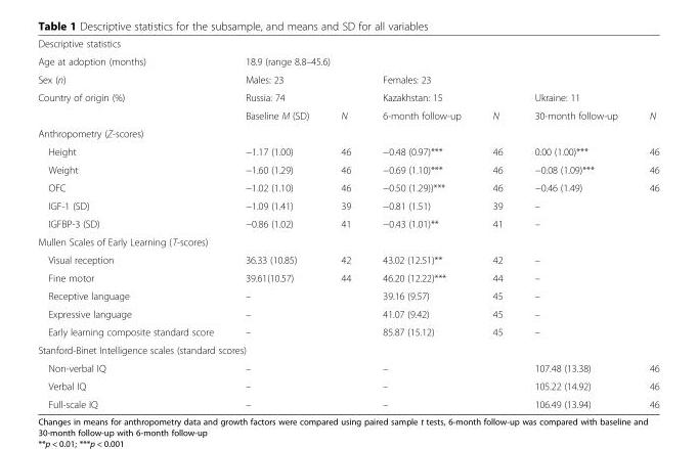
<table><tbody><tr><td colspan="7">Descriptive statistics</td></tr><tr><td>Age at adoption (months)</td><td colspan="6">18.9 (range 8.8–45.6)</td></tr><tr><td>Sex (n)</td><td colspan="2">Males: 23</td><td colspan="2">Females: 23</td><td colspan="2"></td></tr><tr><td rowspan="2">Country of origin (%)</td><td colspan="2">Russia: 74</td><td colspan="2">Kazakhstan: 15</td><td colspan="2">Ukraine: 11</td></tr><tr><td>Baseline M (SD)</td><td>N</td><td>6-month follow-up</td><td>N</td><td>30-month follow-up</td><td>N</td></tr><tr><td colspan="7">Anthropometry (Z-scores)</td></tr><tr><td>Height</td><td>−1.17 (1.00)</td><td>46</td><td>−0.48 (0.97)***</td><td>46</td><td>0.00 (1.00)***</td><td>46</td></tr><tr><td>Weight</td><td>−1.60 (1.29)</td><td>46</td><td>−0.69 (1.10)***</td><td>46</td><td>−0.08 (1.09)***</td><td>46</td></tr><tr><td>OFC</td><td>−1.02 (1.10)</td><td>46</td><td>−0.50 (1.29))***</td><td>46</td><td>−0.46 (1.49)</td><td>46</td></tr><tr><td>IGF-1 (SD)</td><td>−1.09 (1.41)</td><td>39</td><td>−0.81 (1.51)</td><td>39</td><td>–</td><td></td></tr><tr><td>IGFBP-3 (SD)</td><td>−0.86 (1.02)</td><td>41</td><td>−0.43 (1.01)**</td><td>41</td><td>–</td><td></td></tr><tr><td colspan="7">Mullen Scales of Early Learning (T-scores)</td></tr><tr><td>Visual reception</td><td>36.33 (10.85)</td><td>42</td><td>43.02 (12.51)**</td><td>42</td><td>–</td><td></td></tr><tr><td>Fine motor</td><td>39.61(10.57)</td><td>44</td><td>46.20 (12.22)***</td><td>44</td><td>–</td><td></td></tr><tr><td>Receptive language</td><td>–</td><td></td><td>39.16 (9.57)</td><td>45</td><td>–</td><td></td></tr><tr><td>Expressive language</td><td>–</td><td></td><td>41.07 (9.42)</td><td>45</td><td>–</td><td></td></tr><tr><td>Early learning composite standard score</td><td>–</td><td></td><td>85.87 (15.12)</td><td>45</td><td>–</td><td></td></tr><tr><td colspan="7">Stanford-Binet Intelligence scales (standard scores)</td></tr><tr><td>Non-verbal IQ</td><td>–</td><td></td><td>–</td><td></td><td>107.48 (13.38)</td><td>46</td></tr><tr><td>Verbal IQ</td><td>–</td><td></td><td>–</td><td></td><td>105.22 (14.92)</td><td>46</td></tr><tr><td>Full-scale IQ</td><td>–</td><td></td><td>–</td><td></td><td>106.49 (13.94)</td><td>46</td></tr></tbody></table>